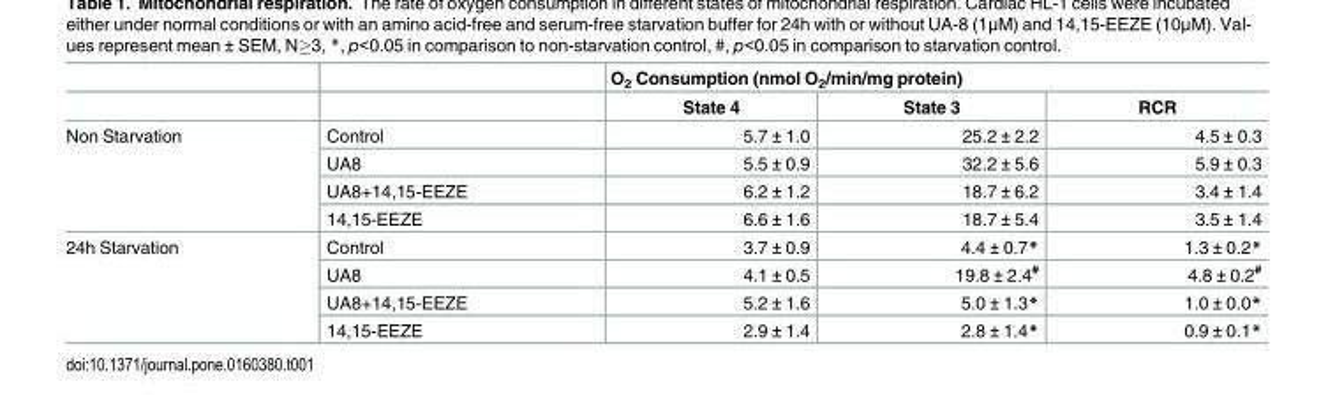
<table><thead><tr><td rowspan="2"></td><td rowspan="2"></td><td colspan="3">O<sub>2</sub> Consumption (nmol O<sub>2</sub>/min/mg protein)</td></tr><tr><td>State 4</td><td>State 3</td><td>RCR</td></tr></thead><tbody><tr><td rowspan="4">Non Starvation</td><td>Control</td><td>5.7 ± 1.0</td><td>25.2 ± 2.2</td><td>4.5 ± 0.3</td></tr><tr><td>UA8</td><td>5.5 ± 0.9</td><td>32.2 ± 5.6</td><td>5.9 ± 0.3</td></tr><tr><td>UA8+14,15-EEZE</td><td>6.2 ± 1.2</td><td>18.7 ± 6.2</td><td>3.4 ± 1.4</td></tr><tr><td>14,15-EEZE</td><td>6.6 ± 1.6</td><td>18.7 ± 5.4</td><td>3.5 ± 1.4</td></tr><tr><td rowspan="4">24h Starvation</td><td>Control</td><td>3.7 ± 0.9</td><td>4.4 ± 0.7*</td><td>1.3 ± 0.2*</td></tr><tr><td>UA8</td><td>4.1 ± 0.5</td><td>19.8 ± 2.4<sup>#</sup></td><td>4.8 ± 0.2<sup>#</sup></td></tr><tr><td>UA8+14,15-EEZE</td><td>5.2 ± 1.6</td><td>5.0 ± 1.3*</td><td>1.0 ± 0.0*</td></tr><tr><td>14,15-EEZE</td><td>2.9 ± 1.4</td><td>2.8 ± 1.4*</td><td>0.9 ± 0.1*</td></tr></tbody></table>